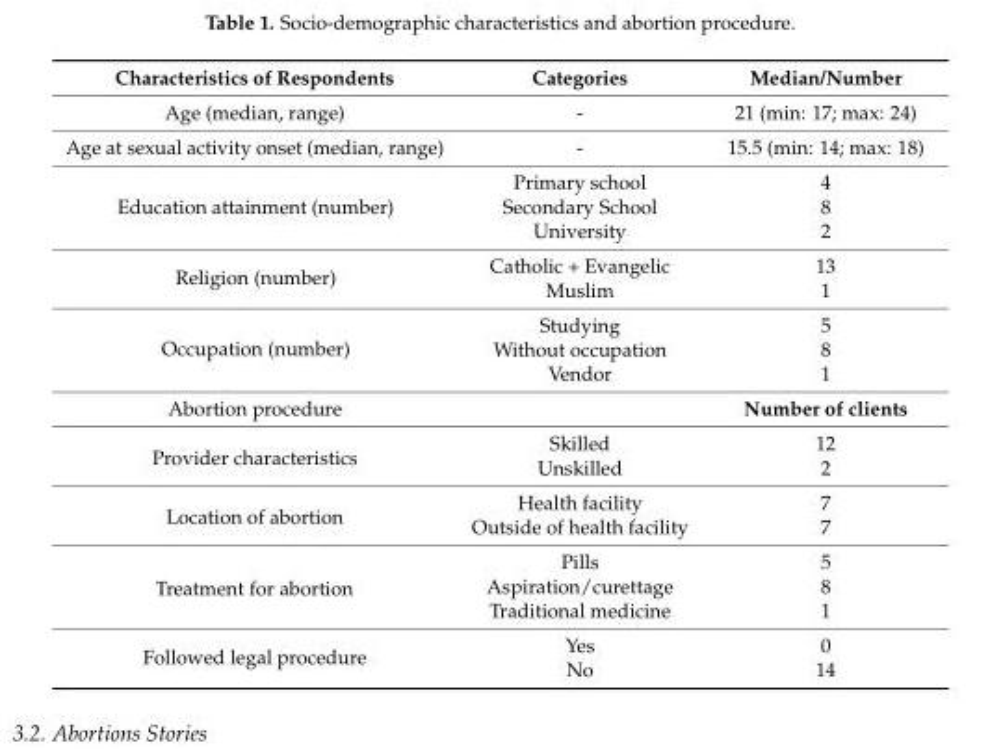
<table><thead><tr><td>Characteristics of Respondents</td><td>Categories</td><td>Median/Number</td></tr></thead><tbody><tr><td>Age (median, range)</td><td>-</td><td>21 (min: 17; max: 24)</td></tr><tr><td>Age at sexual activity onset (median, range)</td><td>-</td><td>15.5 (min: 14; max: 18)</td></tr><tr><td rowspan="3">Education attainment (number)</td><td>Primary school</td><td>4</td></tr><tr><td>Secondary School</td><td>8</td></tr><tr><td>University</td><td>2</td></tr><tr><td rowspan="2">Religion (number)</td><td>Catholic + Evangelic</td><td>13</td></tr><tr><td>Muslim</td><td>1</td></tr><tr><td rowspan="3">Occupation (number)</td><td>Studying</td><td>5</td></tr><tr><td>Without occupation</td><td>8</td></tr><tr><td>Vendor</td><td>1</td></tr><tr><td>Abortion procedure</td><td></td><td>Number of clients</td></tr><tr><td rowspan="2">Provider characteristics</td><td>Skilled</td><td>12</td></tr><tr><td>Unskilled</td><td>2</td></tr><tr><td rowspan="2">Location of abortion</td><td>Health facility</td><td>7</td></tr><tr><td>Outside of health facility</td><td>7</td></tr><tr><td rowspan="3">Treatment for abortion</td><td>Pills</td><td>5</td></tr><tr><td>Aspiration/curettage</td><td>8</td></tr><tr><td>Traditional medicine</td><td>1</td></tr><tr><td rowspan="2">Followed legal procedure</td><td>Yes</td><td>0</td></tr><tr><td>No</td><td>14</td></tr></tbody></table>